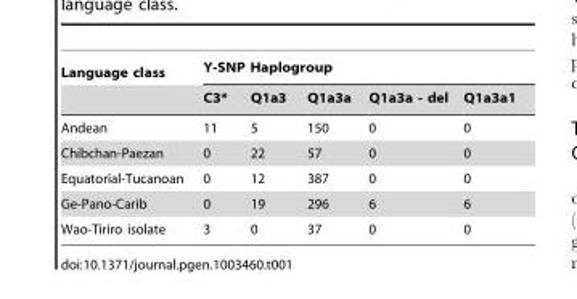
<table><thead><tr><td rowspan="2">Language class</td><td colspan="5">Y-SNP Haplogroup</td></tr><tr><td>C3*</td><td>Q1a3</td><td>Q1a3a</td><td>Q1a3a - del</td><td>Q1a3a1</td></tr></thead><tbody><tr><td>Andean</td><td>11</td><td>5</td><td>150</td><td>0</td><td>0</td></tr><tr><td>Chibchan-Paezan</td><td>0</td><td>22</td><td>57</td><td>0</td><td>0</td></tr><tr><td>Equatorial-Tucanoan</td><td>0</td><td>12</td><td>387</td><td>0</td><td>0</td></tr><tr><td>Ge-Pano-Carib</td><td>0</td><td>19</td><td>296</td><td>6</td><td>6</td></tr><tr><td>Wao-Tiriro isolate</td><td>3</td><td>0</td><td>37</td><td>0</td><td>0</td></tr></tbody></table>